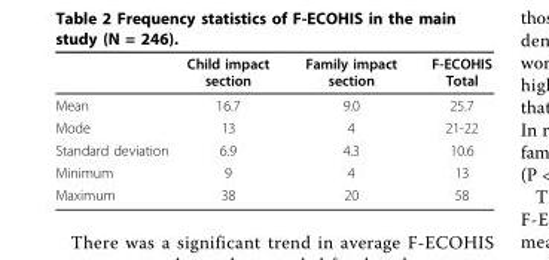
<table><thead><tr><td></td><td>Child impact section</td><td>Family impact section</td><td>F-ECOHIS Total</td></tr></thead><tbody><tr><td>Mean</td><td>16.7</td><td>9.0</td><td>25.7</td></tr><tr><td>Mode</td><td>13</td><td>4</td><td>21-22</td></tr><tr><td>Standard deviation</td><td>6.9</td><td>4.3</td><td>10.6</td></tr><tr><td>Minimum</td><td>9</td><td>4</td><td>13</td></tr><tr><td>Maximum</td><td>38</td><td>20</td><td>58</td></tr></tbody></table>